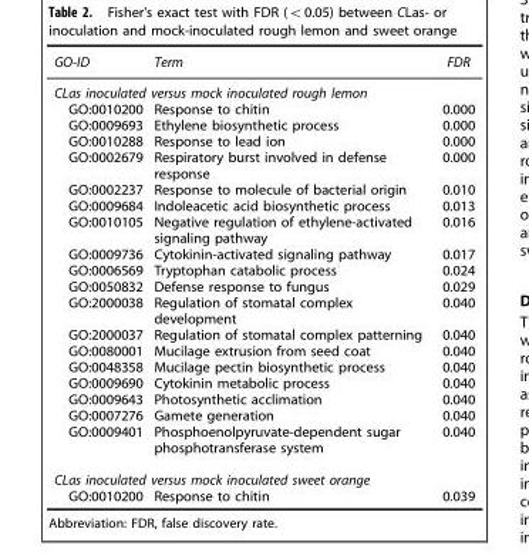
<table><thead><tr><td>GO-ID</td><td>Term</td><td>FDR</td></tr></thead><tbody><tr><td colspan="3">CLas inoculated versus mock inoculated rough lemon</td></tr><tr><td>GO:0010200</td><td>Response to chitin</td><td>0.000</td></tr><tr><td>GO:0009693</td><td>Ethylene biosynthetic process</td><td>0.000</td></tr><tr><td>GO:0010288</td><td>Response to lead ion</td><td>0.000</td></tr><tr><td>GO:0002679</td><td>Respiratory burst involved in defense response</td><td>0.000</td></tr><tr><td>GO:0002237</td><td>Response to molecule of bacterial origin</td><td>0.010</td></tr><tr><td>GO:0009684</td><td>Indoleacetic acid biosynthetic process</td><td>0.013</td></tr><tr><td>GO:0010105</td><td>Negative regulation of ethylene-activated signaling pathway</td><td>0.016</td></tr><tr><td>GO:0009736</td><td>Cytokinin-activated signaling pathway</td><td>0.017</td></tr><tr><td>GO:0006569</td><td>Tryptophan catabolic process</td><td>0.024</td></tr><tr><td>GO:0050832</td><td>Defense response to fungus</td><td>0.029</td></tr><tr><td>GO:2000038</td><td>Regulation of stomatal complex development</td><td>0.040</td></tr><tr><td>GO:2000037</td><td>Regulation of stomatal complex patterning</td><td>0.040</td></tr><tr><td>GO:0080001</td><td>Mucilage extrusion from seed coat</td><td>0.040</td></tr><tr><td>GO:0048358</td><td>Mucilage pectin biosynthetic process</td><td>0.040</td></tr><tr><td>GO:0009690</td><td>Cytokinin metabolic process</td><td>0.040</td></tr><tr><td>GO:0009643</td><td>Photosynthetic acclimation</td><td>0.040</td></tr><tr><td>GO:0007276</td><td>Gamete generation</td><td>0.040</td></tr><tr><td>GO:0009401</td><td>Phosphoenolpyruvate-dependent sugar phosphotransferase system</td><td>0.040</td></tr><tr><td colspan="3">CLas inoculated versus mock inoculated sweet orange</td></tr><tr><td>GO:0010200</td><td>Response to chitin</td><td>0.039</td></tr></tbody></table>